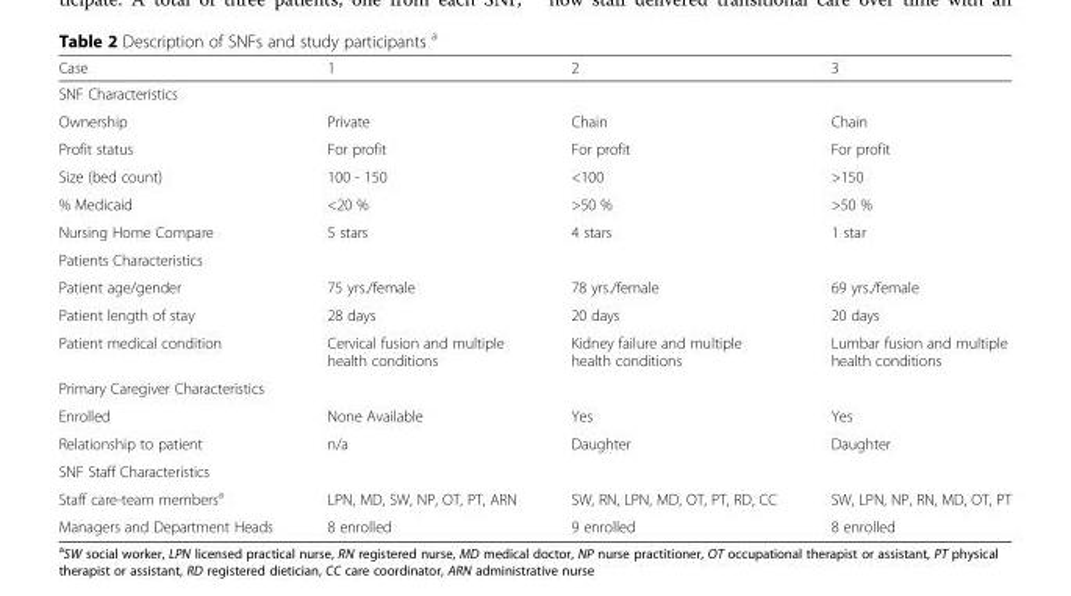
<table><thead><tr><td>Case</td><td>1</td><td>2</td><td>3</td></tr></thead><tbody><tr><td colspan="4">SNF Characteristics</td></tr><tr><td>Ownership</td><td>Private</td><td>Chain</td><td>Chain</td></tr><tr><td>Profit status</td><td>For profit</td><td>For profit</td><td>For profit</td></tr><tr><td>Size (bed count)</td><td>100 - 150</td><td>&lt;100</td><td>&gt;150</td></tr><tr><td>% Medicaid</td><td>&lt;20 %</td><td>&gt;50 %</td><td>&gt;50 %</td></tr><tr><td>Nursing Home Compare</td><td>5 stars</td><td>4 stars</td><td>1 star</td></tr><tr><td colspan="4">Patients Characteristics</td></tr><tr><td>Patient age/gender</td><td>75 yrs./female</td><td>78 yrs./female</td><td>69 yrs./female</td></tr><tr><td>Patient length of stay</td><td>28 days</td><td>20 days</td><td>20 days</td></tr><tr><td>Patient medical condition</td><td>Cervical fusion and multiple health conditions</td><td>Kidney failure and multiple health conditions</td><td>Lumbar fusion and multiple health conditions</td></tr><tr><td colspan="4">Primary Caregiver Characteristics</td></tr><tr><td>Enrolled</td><td>None Available</td><td>Yes</td><td>Yes</td></tr><tr><td>Relationship to patient</td><td>n/a</td><td>Daughter</td><td>Daughter</td></tr><tr><td colspan="4">SNF Staff Characteristics</td></tr><tr><td>Staff care-team members<sup>a</sup></td><td>LPN, MD, SW, NP, OT, PT, ARN</td><td>SW, RN, LPN, MD, OT, PT, RD, CC</td><td>SW, LPN, NP, RN, MD, OT, PT</td></tr><tr><td>Managers and Department Heads</td><td>8 enrolled</td><td>9 enrolled</td><td>8 enrolled</td></tr></tbody></table>